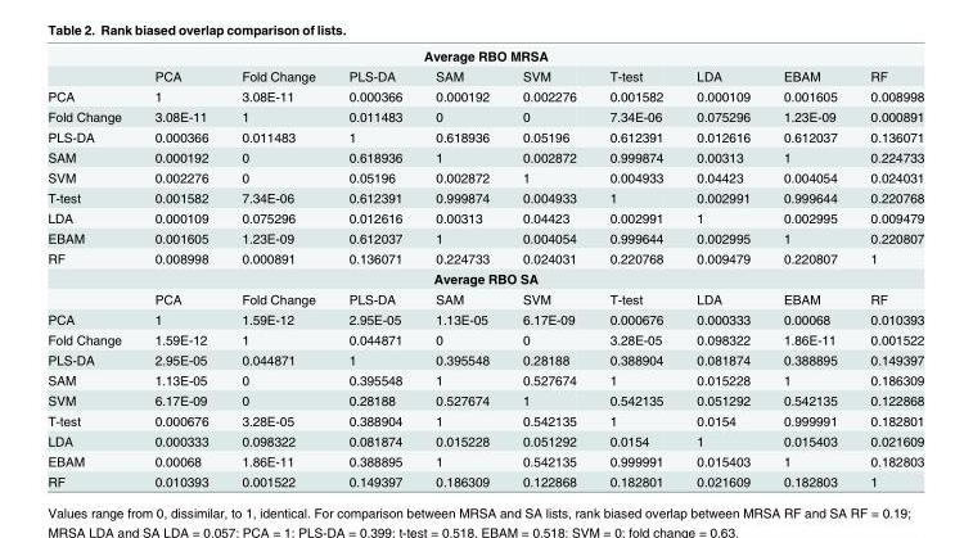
<table><tbody><tr><td colspan="10">Average RBO MRSA</td></tr><tr><td></td><td>PCA</td><td>Fold Change</td><td>PLS-DA</td><td>SAM</td><td>SVM</td><td>T-test</td><td>LDA</td><td>EBAM</td><td>RF</td></tr><tr><td>PCA</td><td>1</td><td>3.08E-11</td><td>0.000366</td><td>0.000192</td><td>0.002276</td><td>0.001582</td><td>0.000109</td><td>0.001605</td><td>0.008998</td></tr><tr><td>Fold Change</td><td>3.08E-11</td><td>1</td><td>0.011483</td><td>0</td><td>0</td><td>7.34E-06</td><td>0.075296</td><td>1.23E-09</td><td>0.000891</td></tr><tr><td>PLS-DA</td><td>0.000366</td><td>0.011483</td><td>1</td><td>0.618936</td><td>0.05196</td><td>0.612391</td><td>0.012616</td><td>0.612037</td><td>0.136071</td></tr><tr><td>SAM</td><td>0.000192</td><td>0</td><td>0.618936</td><td>1</td><td>0.002872</td><td>0.999874</td><td>0.00313</td><td>1</td><td>0.224733</td></tr><tr><td>SVM</td><td>0.002276</td><td>0</td><td>0.05196</td><td>0.002872</td><td>1</td><td>0.004933</td><td>0.04423</td><td>0.004054</td><td>0.024031</td></tr><tr><td>T-test</td><td>0.001582</td><td>7.34E-06</td><td>0.612391</td><td>0.999874</td><td>0.004933</td><td>1</td><td>0.002991</td><td>0.999644</td><td>0.220768</td></tr><tr><td>LDA</td><td>0.000109</td><td>0.075296</td><td>0.012616</td><td>0.00313</td><td>0.04423</td><td>0.002991</td><td>1</td><td>0.002995</td><td>0.009479</td></tr><tr><td>EBAM</td><td>0.001605</td><td>1.23E-09</td><td>0.612037</td><td>1</td><td>0.004054</td><td>0.999644</td><td>0.002995</td><td>1</td><td>0.220807</td></tr><tr><td>RF</td><td>0.008998</td><td>0.000891</td><td>0.136071</td><td>0.224733</td><td>0.024031</td><td>0.220768</td><td>0.009479</td><td>0.220807</td><td>1</td></tr><tr><td colspan="10">Average RBO SA</td></tr><tr><td></td><td>PCA</td><td>Fold Change</td><td>PLS-DA</td><td>SAM</td><td>SVM</td><td>T-test</td><td>LDA</td><td>EBAM</td><td>RF</td></tr><tr><td>PCA</td><td>1</td><td>1.59E-12</td><td>2.95E-05</td><td>1.13E-05</td><td>6.17E-09</td><td>0.000676</td><td>0.000333</td><td>0.00068</td><td>0.010393</td></tr><tr><td>Fold Change</td><td>1.59E-12</td><td>1</td><td>0.044871</td><td>0</td><td>0</td><td>3.28E-05</td><td>0.098322</td><td>1.86E-11</td><td>0.001522</td></tr><tr><td>PLS-DA</td><td>2.95E-05</td><td>0.044871</td><td>1</td><td>0.395548</td><td>0.28188</td><td>0.388904</td><td>0.081874</td><td>0.388895</td><td>0.149397</td></tr><tr><td>SAM</td><td>1.13E-05</td><td>0</td><td>0.395548</td><td>1</td><td>0.527674</td><td>1</td><td>0.015228</td><td>1</td><td>0.186309</td></tr><tr><td>SVM</td><td>6.17E-09</td><td>0</td><td>0.28188</td><td>0.527674</td><td>1</td><td>0.542135</td><td>0.051292</td><td>0.542135</td><td>0.122868</td></tr><tr><td>T-test</td><td>0.000676</td><td>3.28E-05</td><td>0.388904</td><td>1</td><td>0.542135</td><td>1</td><td>0.0154</td><td>0.999991</td><td>0.182801</td></tr><tr><td>LDA</td><td>0.000333</td><td>0.098322</td><td>0.081874</td><td>0.015228</td><td>0.051292</td><td>0.0154</td><td>1</td><td>0.015403</td><td>0.021609</td></tr><tr><td>EBAM</td><td>0.00068</td><td>1.86E-11</td><td>0.388895</td><td>1</td><td>0.542135</td><td>0.999991</td><td>0.015403</td><td>1</td><td>0.182803</td></tr><tr><td>RF</td><td>0.010393</td><td>0.001522</td><td>0.149397</td><td>0.186309</td><td>0.122868</td><td>0.182801</td><td>0.021609</td><td>0.182803</td><td>1</td></tr></tbody></table>